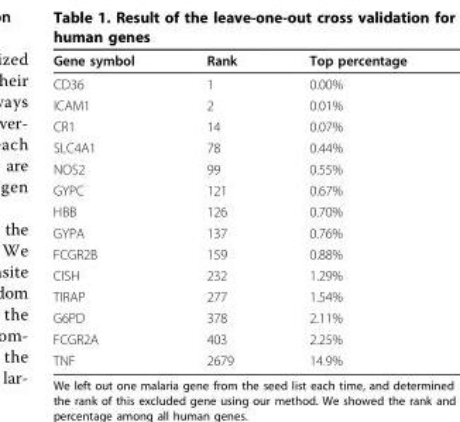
<table><thead><tr><td>Gene symbol</td><td>Rank</td><td>Top percentage</td></tr></thead><tbody><tr><td>CD36</td><td>1</td><td>0.00%</td></tr><tr><td>ICAM1</td><td>2</td><td>0.01%</td></tr><tr><td>CR1</td><td>14</td><td>0.07%</td></tr><tr><td>SLC4A1</td><td>78</td><td>0.44%</td></tr><tr><td>NOS2</td><td>99</td><td>0.55%</td></tr><tr><td>GYPC</td><td>121</td><td>0.67%</td></tr><tr><td>HBB</td><td>126</td><td>0.70%</td></tr><tr><td>GYPA</td><td>137</td><td>0.76%</td></tr><tr><td>FCGR2B</td><td>159</td><td>0.88%</td></tr><tr><td>CISH</td><td>232</td><td>1.29%</td></tr><tr><td>TIRAP</td><td>277</td><td>1.54%</td></tr><tr><td>G6PD</td><td>378</td><td>2.11%</td></tr><tr><td>FCGR2A</td><td>403</td><td>2.25%</td></tr><tr><td>TNF</td><td>2679</td><td>14.9%</td></tr></tbody></table>